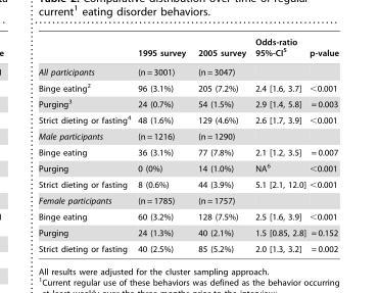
<table><thead><tr><td></td><td>1995 survey</td><td>2005 survey</td><td>Odds-ratio 95%-CI<sup>5</sup></td><td>p-value</td></tr></thead><tbody><tr><td>All participants</td><td>(n = 3001)</td><td>(n = 3047)</td><td></td><td></td></tr><tr><td>Binge eating<sup>2</sup></td><td>96 (3.1%)</td><td>205 (7.2%)</td><td>2.4 [1.6, 3.7]</td><td>&lt;0.001</td></tr><tr><td>Purging<sup>3</sup></td><td>24 (0.7%)</td><td>54 (1.5%)</td><td>2.9 [1.4, 5.8]</td><td>= 0.003</td></tr><tr><td>Strict dieting or fasting<sup>4</sup></td><td>48 (1.6%)</td><td>129 (4.6%)</td><td>2.6 [1.7, 3.9]</td><td>&lt;0.001</td></tr><tr><td>Male participants</td><td>(n = 1216)</td><td>(n = 1290)</td><td></td><td></td></tr><tr><td>Binge eating</td><td>36 (3.1%)</td><td>77 (7.8%)</td><td>2.1 [1.2, 3.5]</td><td>= 0.007</td></tr><tr><td>Purging</td><td>0 (0%)</td><td>14 (1.0%)</td><td>NA<sup>6</sup></td><td>&lt;0.001</td></tr><tr><td>Strict dieting or fasting</td><td>8 (0.6%)</td><td>44 (3.9%)</td><td>5.1 [2.1, 12.0]</td><td>&lt;0.001</td></tr><tr><td>Female participants</td><td>(n = 1785)</td><td>(n = 1757)</td><td></td><td></td></tr><tr><td>Binge eating</td><td>60 (3.2%)</td><td>128 (7.5%)</td><td>2.5 [1.6, 3.9]</td><td>&lt;0.001</td></tr><tr><td>Purging</td><td>24 (1.3%)</td><td>40 (2.1%)</td><td>1.5 [0.85, 2.8]</td><td>= 0.152</td></tr><tr><td>Strict dieting or fasting</td><td>40 (2.5%)</td><td>85 (5.2%)</td><td>2.0 [1.3, 3.2]</td><td>= 0.002</td></tr></tbody></table>